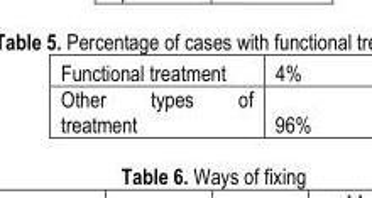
<table><tbody><tr><td>Functional treatment</td><td>4%</td></tr><tr><td>Other types of treatment</td><td>96%</td></tr></tbody></table>